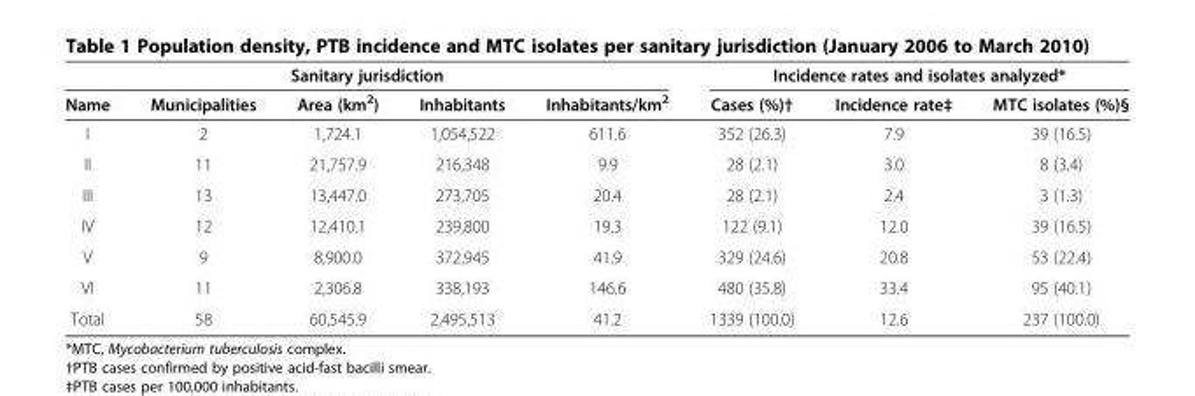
<table><thead><tr><td colspan="5">Sanitary jurisdiction</td><td colspan="3">Incidence rates and isolates analyzed*</td></tr><tr><td>Name</td><td>Municipalities</td><td>Area (km<sup>2</sup>)</td><td>Inhabitants</td><td>Inhabitants/km<sup>2</sup></td><td>Cases (%)†</td><td>Incidence rate‡</td><td>MTC isolates (%)§</td></tr></thead><tbody><tr><td>I</td><td>2</td><td>1,724.1</td><td>1,054,522</td><td>611.6</td><td>352 (26.3)</td><td>7.9</td><td>39 (16.5)</td></tr><tr><td>II</td><td>11</td><td>21,757.9</td><td>216,348</td><td>9.9</td><td>28 (2.1)</td><td>3.0</td><td>8 (3.4)</td></tr><tr><td>III</td><td>13</td><td>13,447.0</td><td>273,705</td><td>20.4</td><td>28 (2.1)</td><td>2.4</td><td>3 (1.3)</td></tr><tr><td>IV</td><td>12</td><td>12,410.1</td><td>239,800</td><td>19.3</td><td>122 (9.1)</td><td>12.0</td><td>39 (16.5)</td></tr><tr><td>V</td><td>9</td><td>8,900.0</td><td>372,945</td><td>41.9</td><td>329 (24.6)</td><td>20.8</td><td>53 (22.4)</td></tr><tr><td>VI</td><td>11</td><td>2,306.8</td><td>338,193</td><td>146.6</td><td>480 (35.8)</td><td>33.4</td><td>95 (40.1)</td></tr><tr><td>Total</td><td>58</td><td>60,545.9</td><td>2,495,513</td><td>41.2</td><td>1339 (100.0)</td><td>12.6</td><td>237 (100.0)</td></tr></tbody></table>